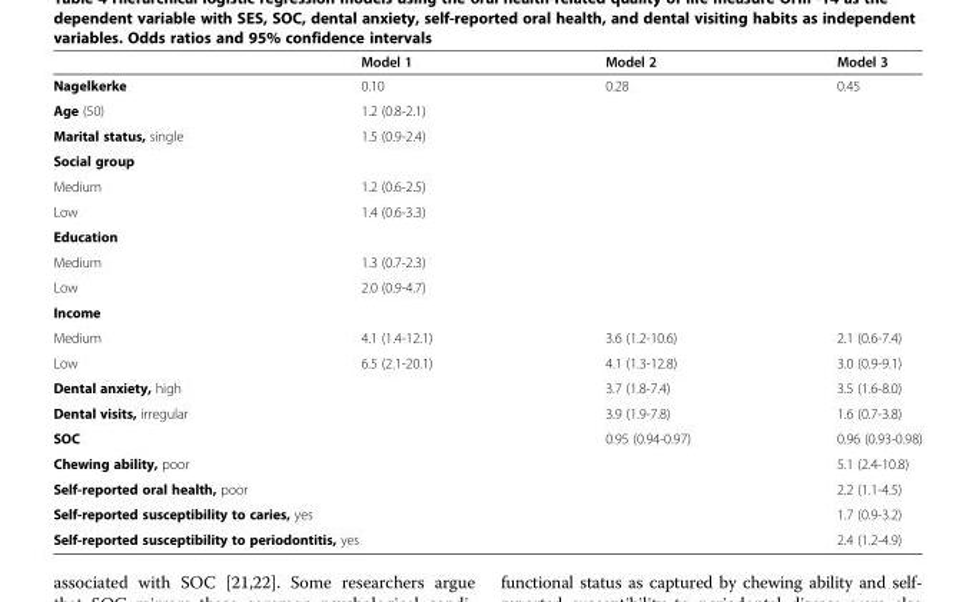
<table><thead><tr><td></td><td>Model 1</td><td>Model 2</td><td>Model 3</td></tr></thead><tbody><tr><td>Nagelkerke</td><td>0.10</td><td>0.28</td><td>0.45</td></tr><tr><td>Age (50)</td><td>1.2 (0.8-2.1)</td><td></td><td></td></tr><tr><td>Marital status, single</td><td>1.5 (0.9-2.4)</td><td></td><td></td></tr><tr><td colspan="4">Social group</td></tr><tr><td>Medium</td><td>1.2 (0.6-2.5)</td><td></td><td></td></tr><tr><td>Low</td><td>1.4 (0.6-3.3)</td><td></td><td></td></tr><tr><td colspan="4">Education</td></tr><tr><td>Medium</td><td>1.3 (0.7-2.3)</td><td></td><td></td></tr><tr><td>Low</td><td>2.0 (0.9-4.7)</td><td></td><td></td></tr><tr><td colspan="4">Income</td></tr><tr><td>Medium</td><td>4.1 (1.4-12.1)</td><td>3.6 (1.2-10.6)</td><td>2.1 (0.6-7.4)</td></tr><tr><td>Low</td><td>6.5 (2.1-20.1)</td><td>4.1 (1.3-12.8)</td><td>3.0 (0.9-9.1)</td></tr><tr><td>Dental anxiety, high</td><td></td><td>3.7 (1.8-7.4)</td><td>3.5 (1.6-8.0)</td></tr><tr><td>Dental visits, irregular</td><td></td><td>3.9 (1.9-7.8)</td><td>1.6 (0.7-3.8)</td></tr><tr><td>SOC</td><td></td><td>0.95 (0.94-0.97)</td><td>0.96 (0.93-0.98)</td></tr><tr><td colspan="2">Chewing ability, poor</td><td></td><td>5.1 (2.4-10.8)</td></tr><tr><td colspan="2">Self-reported oral health, poor</td><td></td><td>2.2 (1.1-4.5)</td></tr><tr><td colspan="2">Self-reported susceptibility to caries, yes</td><td></td><td>1.7 (0.9-3.2)</td></tr><tr><td colspan="3">Self-reported susceptibility to periodontitis, yes</td><td>2.4 (1.2-4.9)</td></tr></tbody></table>